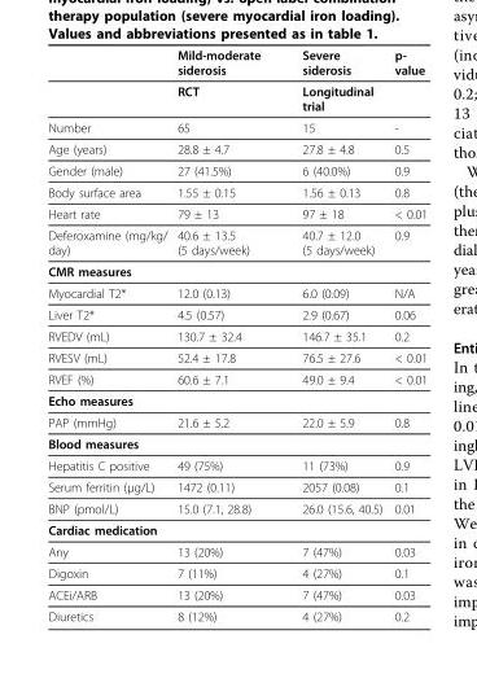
<table><thead><tr><td></td><td>Mild-moderate siderosis</td><td>Severe siderosis</td><td>p- value</td></tr></thead><tbody><tr><td></td><td>RCT</td><td>Longitudinal trial</td><td></td></tr><tr><td>Number</td><td>65</td><td>15</td><td>-</td></tr><tr><td>Age (years)</td><td>28.8 ± 4.7</td><td>27.8 ± 4.8</td><td>0.5</td></tr><tr><td>Gender (male)</td><td>27 (41.5%)</td><td>6 (40.0%)</td><td>0.9</td></tr><tr><td>Body surface area</td><td>1.55 ± 0.15</td><td>1.56 ± 0.13</td><td>0.8</td></tr><tr><td>Heart rate</td><td>79 ± 13</td><td>97 ± 18</td><td>&lt; 0.01</td></tr><tr><td>Deferoxamine (mg/kg/ day)</td><td>40.6 ± 13.5 (5 days/week)</td><td>40.7 ± 12.0 (5 days/week)</td><td>0.9</td></tr><tr><td colspan="4">CMR measures</td></tr><tr><td>Myocardial T2*</td><td>12.0 (0.13)</td><td>6.0 (0.09)</td><td>N/A</td></tr><tr><td>Liver T2*</td><td>4.5 (0.57)</td><td>2.9 (0.67)</td><td>0.06</td></tr><tr><td>RVEDV (mL)</td><td>130.7 ± 32.4</td><td>146.7 ± 35.1</td><td>0.2</td></tr><tr><td>RVESV (mL)</td><td>52.4 ± 17.8</td><td>76.5 ± 27.6</td><td>&lt; 0.01</td></tr><tr><td>RVEF (%)</td><td>60.6 ± 7.1</td><td>49.0 ± 9.4</td><td>&lt; 0.01</td></tr><tr><td colspan="4">Echo measures</td></tr><tr><td>PAP (mmHg)</td><td>21.6 ± 5.2</td><td>22.0 ± 5.9</td><td>0.8</td></tr><tr><td colspan="4">Blood measures</td></tr><tr><td>Hepatitis C positive</td><td>49 (75%)</td><td>11 (73%)</td><td>0.9</td></tr><tr><td>Serum ferritin (μg/L)</td><td>1472 (0.11)</td><td>2057 (0.08)</td><td>0.1</td></tr><tr><td>BNP (pmol/L)</td><td>15.0 (7.1, 28.8)</td><td>26.0 (15.6, 40.5)</td><td>0.01</td></tr><tr><td colspan="4">Cardiac medication</td></tr><tr><td>Any</td><td>13 (20%)</td><td>7 (47%)</td><td>0.03</td></tr><tr><td>Digoxin</td><td>7 (11%)</td><td>4 (27%)</td><td>0.1</td></tr><tr><td>ACEi/ARB</td><td>13 (20%)</td><td>7 (47%)</td><td>0.03</td></tr><tr><td>Diuretics</td><td>8 (12%)</td><td>4 (27%)</td><td>0.2</td></tr></tbody></table>